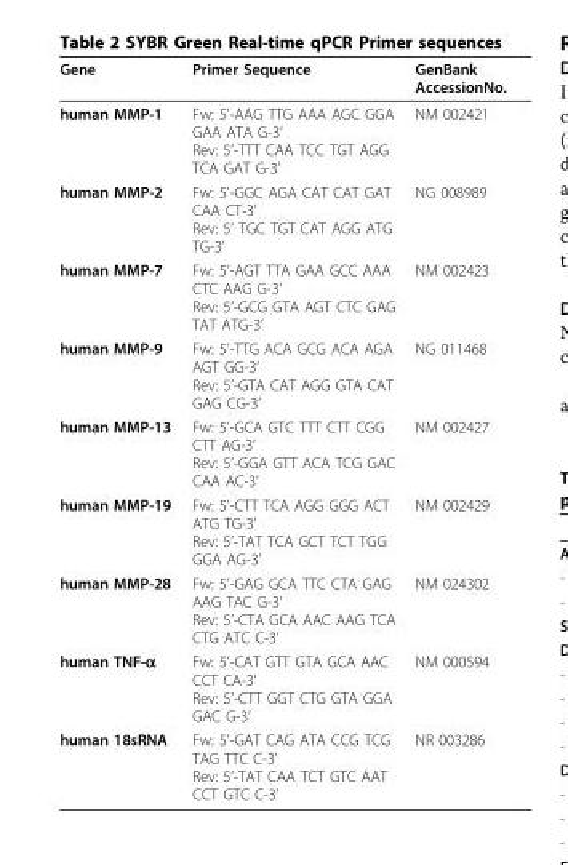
<table><thead><tr><td>Gene</td><td>Primer Sequence</td><td>GenBank AccessionNo.</td></tr></thead><tbody><tr><td>human MMP-1</td><td>Fw: 5’-AAG TTG AAA AGC GGA GAA ATA G-3’ Rev: 5’-TTT CAA TCC TGT AGG TCA GAT G-3’</td><td>NM 002421</td></tr><tr><td>human MMP-2</td><td>Fw: 5’-GGC AGA CAT CAT GAT CAA CT-3’ Rev: 5’ TGC TGT CAT AGG ATG TG-3’</td><td>NG 008989</td></tr><tr><td>human MMP-7</td><td>Fw: 5’-AGT TTA GAA GCC AAA CTC AAG G-3’ Rev: 5’-GCG GTA AGT CTC GAG TAT ATG-3’</td><td>NM 002423</td></tr><tr><td>human MMP-9</td><td>Fw: 5’-TTG ACA GCG ACA AGA AGT GG-3’ Rev: 5’-GTA CAT AGG GTA CAT GAG CG-3’</td><td>NG 011468</td></tr><tr><td>human MMP-13</td><td>Fw: 5’-GCA GTC TTT CTT CGG CTT AG-3’ Rev: 5’-GGA GTT ACA TCG GAC CAA AC-3’</td><td>NM 002427</td></tr><tr><td>human MMP-19</td><td>Fw: 5’-CTT TCA AGG GGG ACT ATG TG-3’ Rev: 5’-TAT TCA GCT TCT TGG GGA AG-3’</td><td>NM 002429</td></tr><tr><td>human MMP-28</td><td>Fw: 5’-GAG GCA TTC CTA GAG AAG TAC G-3’ Rev: 5’-CTA GCA AAC AAG TCA CTG ATC C-3’</td><td>NM 024302</td></tr><tr><td>human TNF-α</td><td>Fw: 5’-CAT GTT GTA GCA AAC CCT CA-3’ Rev: 5’-CTT GGT CTG GTA GGA GAC G-3’</td><td>NM 000594</td></tr><tr><td>human 18sRNA</td><td>Fw: 5’-GAT CAG ATA CCG TCG TAG TTC C-3’ Rev: 5’-TAT CAA TCT GTC AAT CCT GTC C-3’</td><td>NR 003286</td></tr></tbody></table>